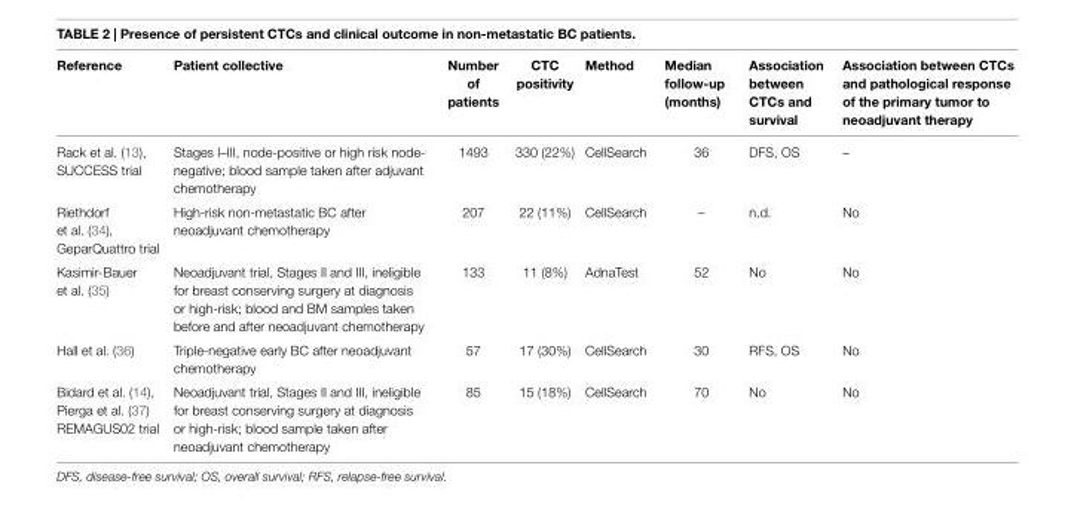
<table><thead><tr><td>Reference</td><td>Patient collective</td><td>Number of patients</td><td>CTC positivity</td><td>Method</td><td>Median follow-up (months)</td><td>Association between CTCs and survival</td><td>Association between CTCs and pathological response of the primary tumor to neoadjuvant therapy</td></tr></thead><tbody><tr><td>Rack et al. (13), SUCCESS trial</td><td>Stages I–III, node-positive or high risk node- negative; blood sample taken after adjuvant chemotherapy</td><td>1493</td><td>330 (22%)</td><td>CellSearch</td><td>36</td><td>DFS, OS</td><td>–</td></tr><tr><td>Riethdorf et al. (34), GeparQuattro trial</td><td>High-risk non-metastatic BC after neoadjuvant chemotherapy</td><td>207</td><td>22 (11%)</td><td>CellSearch</td><td>–</td><td>n.d.</td><td>No</td></tr><tr><td>Kasimir-Bauer et al. (35)</td><td>Neoadjuvant trial, Stages II and III, ineligible for breast conserving surgery at diagnosis or high-risk; blood and BM samples taken before and after neoadjuvant chemotherapy</td><td>133</td><td>11 (8%)</td><td>AdnaTest</td><td>52</td><td>No</td><td>No</td></tr><tr><td>Hall et al. (36)</td><td>Triple-negative early BC after neoadjuvant chemotherapy</td><td>57</td><td>17 (30%)</td><td>CellSearch</td><td>30</td><td>RFS, OS</td><td>No</td></tr><tr><td>Bidard et al. (14), Pierga et al. (37) REMAGUS02 trial</td><td>Neoadjuvant trial, Stages II and III, ineligible for breast conserving surgery at diagnosis or high-risk; blood sample taken after neoadjuvant chemotherapy</td><td>85</td><td>15 (18%)</td><td>CellSearch</td><td>70</td><td>No</td><td>No</td></tr></tbody></table>